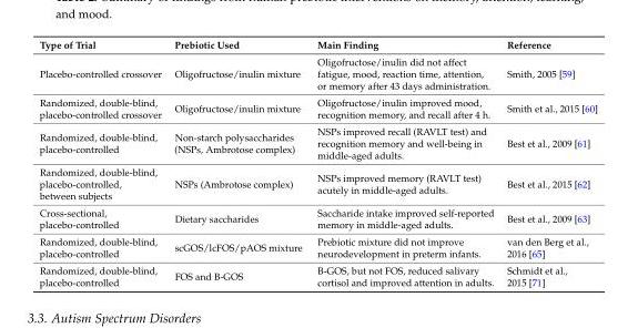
<table><thead><tr><td>Type of Trial</td><td>Prebiotic Used</td><td>Main Finding</td><td>Reference</td></tr></thead><tbody><tr><td>Placebo-controlled crossover</td><td>Oligofructose/inulin mixture</td><td>Oligofructose/inulin did not affect fatigue, mood, reaction time, attention, or memory after 43 days administration.</td><td>Smith, 2005 [59]</td></tr><tr><td>Randomized, double-blind, placebo-controlled crossover</td><td>Oligofructose/inulin mixture</td><td>Oligofructose/inulin improved mood, recognition memory, and recall after 4 h.</td><td>Smith et al., 2015 [60]</td></tr><tr><td>Randomized, double-blind, placebo-controlled</td><td>Non-starch polysaccharides (NSPs, Ambrotose complex)</td><td>NSPs improved recall (RAVLT test) and recognition memory and well-being in middle-aged adults.</td><td>Best et al., 2009 [61]</td></tr><tr><td>Randomized, double-blind, placebo-controlled, between subjects</td><td>NSPs (Ambrotose complex)</td><td>NSPs improved memory (RAVLT test) acutely in middle-aged adults.</td><td>Best et al., 2015 [62]</td></tr><tr><td>Cross-sectional, placebo-controlled</td><td>Dietary saccharides</td><td>Saccharide intake improved self-reported memory in middle-aged adults.</td><td>Best et al., 2009 [63]</td></tr><tr><td>Randomized, double-blind, placebo-controlled</td><td>scGOS/lcFOS/pAOS mixture</td><td>Prebiotic mixture did not improve neurodevelopment in preterm infants.</td><td>van den Berg et al., 2016 [65]</td></tr><tr><td>Randomized, double-blind, placebo-controlled</td><td>FOS and B-GOS</td><td>B-GOS, but not FOS, reduced salivary cortisol and improved attention in adults.</td><td>Schmidt et al., 2015 [71]</td></tr></tbody></table>